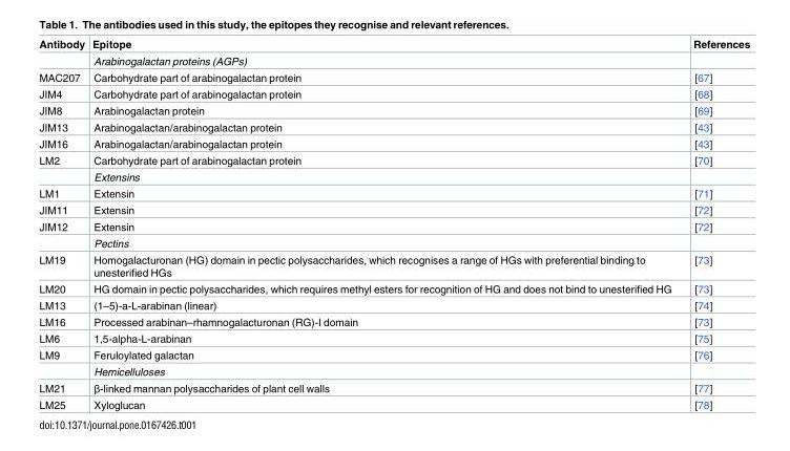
<table><thead><tr><td>Antibody</td><td>Epitope</td><td>References</td></tr></thead><tbody><tr><td></td><td>Arabinogalactan proteins (AGPs)</td><td></td></tr><tr><td>MAC207</td><td>Carbohydrate part of arabinogalactan protein</td><td>[67]</td></tr><tr><td>JIM4</td><td>Carbohydrate part of arabinogalactan protein</td><td>[68]</td></tr><tr><td>JIM8</td><td>Arabinogalactan protein</td><td>[69]</td></tr><tr><td>JIM13</td><td>Arabinogalactan/arabinogalactan protein</td><td>[43]</td></tr><tr><td>JIM16</td><td>Arabinogalactan/arabinogalactan protein</td><td>[43]</td></tr><tr><td rowspan="2">LM2</td><td>Carbohydrate part of arabinogalactan protein</td><td>[70]</td></tr><tr><td>Extensins</td><td></td></tr><tr><td>LM1</td><td>Extensin</td><td>[71]</td></tr><tr><td>JIM11</td><td>Extensin</td><td>[72]</td></tr><tr><td rowspan="2">JIM12</td><td>Extensin</td><td>[72]</td></tr><tr><td>Pectins</td><td></td></tr><tr><td>LM19</td><td>Homogalacturonan (HG) domain in pectic polysaccharides, which recognises a range of HGs with preferential binding to unesterified HGs</td><td>[73]</td></tr><tr><td>LM20</td><td>HG domain in pectic polysaccharides, which requires methyl esters for recognition of HG and does not bind to unesterified HG</td><td>[73]</td></tr><tr><td>LM13</td><td>(1–5)-a-L-arabinan (linear)</td><td>[74]</td></tr><tr><td>LM16</td><td>Processed arabinan–rhamnogalacturonan (RG)-I domain</td><td>[73]</td></tr><tr><td>LM6</td><td>1,5-alpha-L-arabinan</td><td>[75]</td></tr><tr><td rowspan="2">LM9</td><td>Feruloylated galactan</td><td>[76]</td></tr><tr><td>Hemicelluloses</td><td></td></tr><tr><td>LM21</td><td>β-linked mannan polysaccharides of plant cell walls</td><td>[77]</td></tr><tr><td>LM25</td><td>Xyloglucan</td><td>[78]</td></tr></tbody></table>